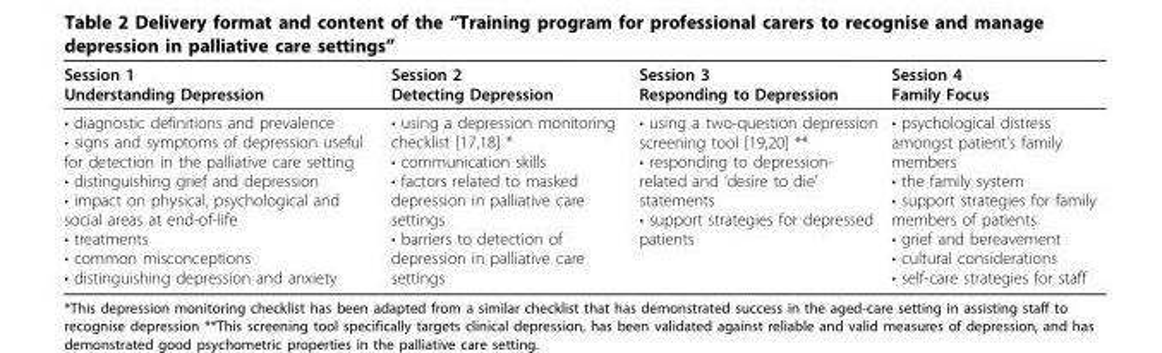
<table><thead><tr><td>Session 1 Understanding Depression</td><td>Session 2 Detecting Depression</td><td>Session 3 Responding to Depression</td><td>Session 4 Family Focus</td></tr></thead><tbody><tr><td>• diagnostic definitions and prevalence • signs and symptoms of depression useful for detection in the palliative care setting • distinguishing grief and depression • impact on physical, psychological and social areas at end-of-life • treatments • common misconceptions • distinguishing depression and anxiety</td><td>• using a depression monitoring checklist [17,18] * • communication skills • factors related to masked depression in palliative care settings • barriers to detection of depression in palliative care settings</td><td>• using a two-question depression screening tool [19,20] ** • responding to depression- related and ‘desire to die’ statements • support strategies for depressed patients</td><td>• psychological distress amongst patient’s family members • the family system • support strategies for family members of patients • grief and bereavement • cultural considerations • self-care strategies for staff</td></tr></tbody></table>